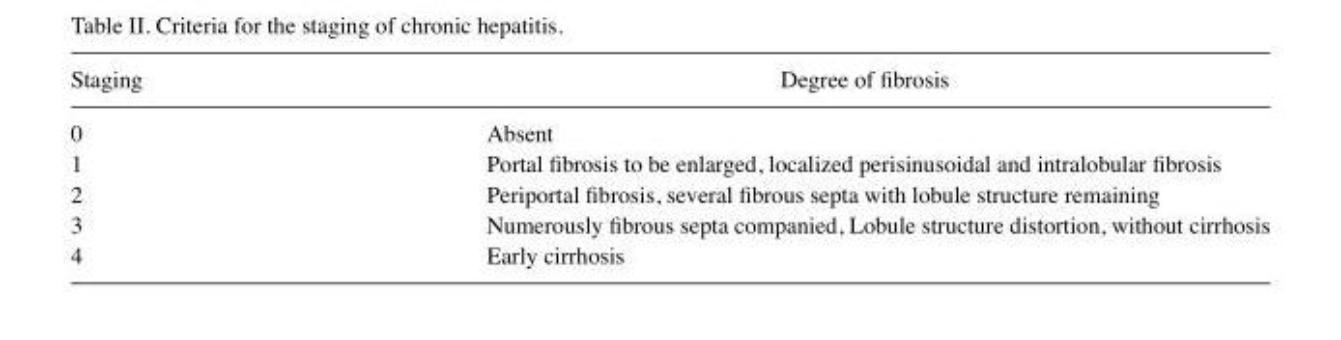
<table><thead><tr><td>Staging</td><td>Degree of fibrosis</td></tr></thead><tbody><tr><td>0</td><td>Absent</td></tr><tr><td>1</td><td>Portal fibrosis to be enlarged, localized perisinusoidal and intralobular fibrosis</td></tr><tr><td>2</td><td>Periportal fibrosis, several fibrous septa with lobule structure remaining</td></tr><tr><td>3</td><td>Numerously fibrous septa companied, Lobule structure distortion, without cirrhosis</td></tr><tr><td>4</td><td>Early cirrhosis</td></tr></tbody></table>